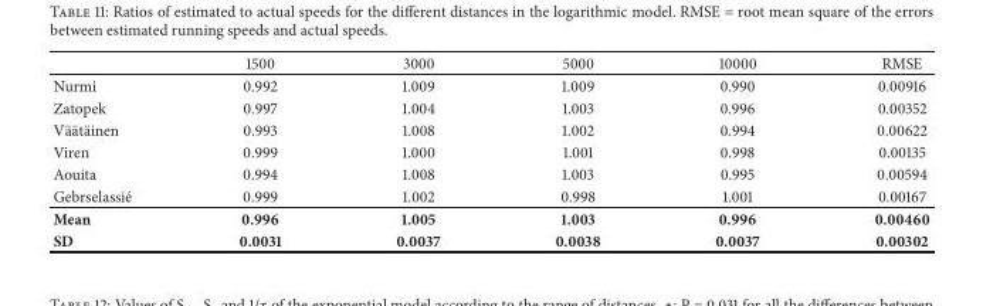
<table><thead><tr><td></td><td>1500</td><td>3000</td><td>5000</td><td>10000</td><td>RMSE</td></tr></thead><tbody><tr><td>Nurmi</td><td>0.992</td><td>1.009</td><td>1.009</td><td>0.990</td><td>0.00916</td></tr><tr><td>Zatopek</td><td>0.997</td><td>1.004</td><td>1.003</td><td>0.996</td><td>0.00352</td></tr><tr><td>V¨a¨at¨ainen</td><td>0.993</td><td>1.008</td><td>1.002</td><td>0.994</td><td>0.00622</td></tr><tr><td>Viren</td><td>0.999</td><td>1.000</td><td>1.001</td><td>0.998</td><td>0.00135</td></tr><tr><td>Aouita</td><td>0.994</td><td>1.008</td><td>1.003</td><td>0.995</td><td>0.00594</td></tr><tr><td>Gebrselassi´e</td><td>0.999</td><td>1.002</td><td>0.998</td><td>1.001</td><td>0.00167</td></tr><tr><td>Mean</td><td>0.996</td><td>1.005</td><td>1.003</td><td>0.996</td><td>0.00460</td></tr><tr><td>SD</td><td>0.0031</td><td>0.0037</td><td>0.0038</td><td>0.0037</td><td>0.00302</td></tr></tbody></table>